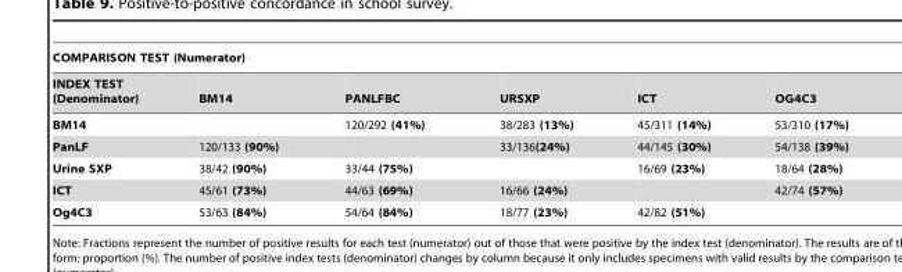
<table><thead><tr><td colspan="6">COMPARISON TEST (Numerator)</td></tr><tr><td>INDEX TEST (Denominator)</td><td>BM14</td><td>PANLFBC</td><td>URSXP</td><td>ICT</td><td>OG4C3</td></tr></thead><tbody><tr><td>BM14</td><td></td><td>120/292 (41%)</td><td>38/283 (13%)</td><td>45/311 (14%)</td><td>53/310 (17%)</td></tr><tr><td>PanLF</td><td>120/133 (90%)</td><td></td><td>33/136(24%)</td><td>44/145 (30%)</td><td>54/138 (39%)</td></tr><tr><td>Urine SXP</td><td>38/42 (90%)</td><td>33/44 (75%)</td><td></td><td>16/69 (23%)</td><td>18/64 (28%)</td></tr><tr><td>ICT</td><td>45/61 (73%)</td><td>44/63 (69%)</td><td>16/66 (24%)</td><td></td><td>42/74 (57%)</td></tr><tr><td>Og4C3</td><td>53/63 (84%)</td><td>54/64 (84%)</td><td>18/77 (23%)</td><td>42/82 (51%)</td><td></td></tr></tbody></table>